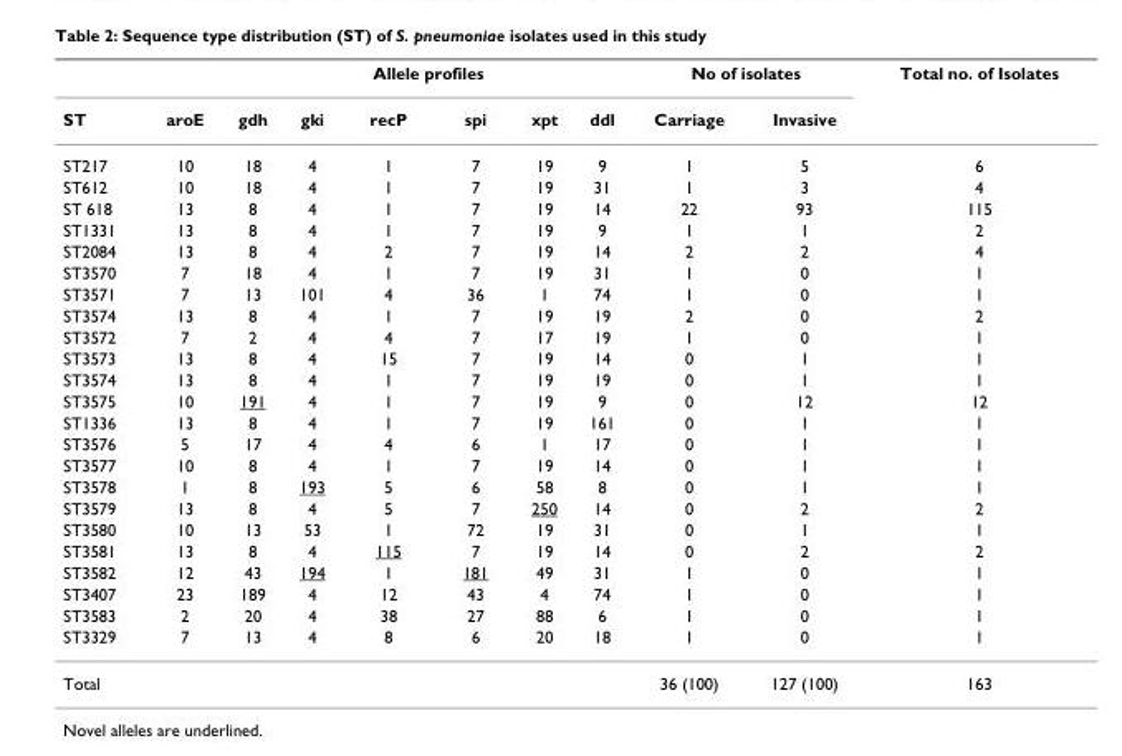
<table><thead><tr><td rowspan="2">ST</td><td rowspan="2">aroE</td><td rowspan="2">gdh</td><td rowspan="2">gki</td><td colspan="2">Allele profiles</td><td rowspan="2">xpt</td><td rowspan="2">ddl</td><td colspan="2">No of isolates</td><td rowspan="2">Total no. of Isolates</td></tr><tr><td>recP</td><td>spi</td><td>Carriage</td><td>Invasive</td></tr></thead><tbody><tr><td>ST217</td><td>10</td><td>18</td><td>4</td><td>1</td><td>7</td><td>19</td><td>9</td><td>1</td><td>5</td><td>6</td></tr><tr><td>ST612</td><td>10</td><td>18</td><td>4</td><td>1</td><td>7</td><td>19</td><td>31</td><td>1</td><td>3</td><td>4</td></tr><tr><td>ST 618</td><td>13</td><td>8</td><td>4</td><td>1</td><td>7</td><td>19</td><td>14</td><td>22</td><td>93</td><td>115</td></tr><tr><td>ST1331</td><td>13</td><td>8</td><td>4</td><td>1</td><td>7</td><td>19</td><td>9</td><td>1</td><td>1</td><td>2</td></tr><tr><td>ST2084</td><td>13</td><td>8</td><td>4</td><td>2</td><td>7</td><td>19</td><td>14</td><td>2</td><td>2</td><td>4</td></tr><tr><td>ST3570</td><td>7</td><td>18</td><td>4</td><td>1</td><td>7</td><td>19</td><td>31</td><td>1</td><td>0</td><td>1</td></tr><tr><td>ST3571</td><td>7</td><td>13</td><td>101</td><td>4</td><td>36</td><td>1</td><td>74</td><td>1</td><td>0</td><td>1</td></tr><tr><td>ST3574</td><td>13</td><td>8</td><td>4</td><td>1</td><td>7</td><td>19</td><td>19</td><td>2</td><td>0</td><td>2</td></tr><tr><td>ST3572</td><td>7</td><td>2</td><td>4</td><td>4</td><td>7</td><td>17</td><td>19</td><td>1</td><td>0</td><td>1</td></tr><tr><td>ST3573</td><td>13</td><td>8</td><td>4</td><td>15</td><td>7</td><td>19</td><td>14</td><td>0</td><td>1</td><td>1</td></tr><tr><td>ST3574</td><td>13</td><td>8</td><td>4</td><td>1</td><td>7</td><td>19</td><td>19</td><td>0</td><td>1</td><td>1</td></tr><tr><td>ST3575</td><td>10</td><td>191</td><td>4</td><td>1</td><td>7</td><td>19</td><td>9</td><td>0</td><td>12</td><td>12</td></tr><tr><td>ST1336</td><td>13</td><td>8</td><td>4</td><td>1</td><td>7</td><td>19</td><td>161</td><td>0</td><td>1</td><td>1</td></tr><tr><td>ST3576</td><td>5</td><td>17</td><td>4</td><td>4</td><td>6</td><td>1</td><td>17</td><td>0</td><td>1</td><td>1</td></tr><tr><td>ST3577</td><td>10</td><td>8</td><td>4</td><td>1</td><td>7</td><td>19</td><td>14</td><td>0</td><td>1</td><td>1</td></tr><tr><td>ST3578</td><td>1</td><td>8</td><td>193</td><td>5</td><td>6</td><td>58</td><td>8</td><td>0</td><td>1</td><td>1</td></tr><tr><td>ST3579</td><td>13</td><td>8</td><td>4</td><td>5</td><td>7</td><td>250</td><td>14</td><td>0</td><td>2</td><td>2</td></tr><tr><td>ST3580</td><td>10</td><td>13</td><td>53</td><td>1</td><td>72</td><td>19</td><td>31</td><td>0</td><td>1</td><td>1</td></tr><tr><td>ST3581</td><td>13</td><td>8</td><td>4</td><td>115</td><td>7</td><td>19</td><td>14</td><td>0</td><td>2</td><td>2</td></tr><tr><td>ST3582</td><td>12</td><td>43</td><td>194</td><td>1</td><td>181</td><td>49</td><td>31</td><td>1</td><td>0</td><td>1</td></tr><tr><td>ST3407</td><td>23</td><td>189</td><td>4</td><td>12</td><td>43</td><td>4</td><td>74</td><td>1</td><td>0</td><td>1</td></tr><tr><td>ST3583</td><td>2</td><td>20</td><td>4</td><td>38</td><td>27</td><td>88</td><td>6</td><td>1</td><td>0</td><td>1</td></tr><tr><td>ST3329</td><td>7</td><td>13</td><td>4</td><td>8</td><td>6</td><td>20</td><td>18</td><td>1</td><td>0</td><td>1</td></tr><tr><td>Total</td><td></td><td></td><td></td><td></td><td></td><td></td><td></td><td>36 (100)</td><td>127 (100)</td><td>163</td></tr></tbody></table>